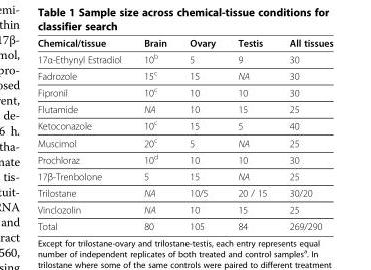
<table><thead><tr><td>Chemical/tissue</td><td>Brain</td><td>Ovary</td><td>Testis</td><td>All tissues</td></tr></thead><tbody><tr><td>17α-Ethynyl Estradiol</td><td>10<sup>b</sup></td><td>5</td><td>9</td><td>30</td></tr><tr><td>Fadrozole</td><td>15<sup>c</sup></td><td>15</td><td>NA</td><td>30</td></tr><tr><td>Fipronil</td><td>10<sup>c</sup></td><td>10</td><td>10</td><td>30</td></tr><tr><td>Flutamide</td><td>NA</td><td>10</td><td>15</td><td>25</td></tr><tr><td>Ketoconazole</td><td>10<sup>c</sup></td><td>15</td><td>5</td><td>40</td></tr><tr><td>Muscimol</td><td>20<sup>c</sup></td><td>5</td><td>NA</td><td>25</td></tr><tr><td>Prochloraz</td><td>10<sup>d</sup></td><td>10</td><td>10</td><td>30</td></tr><tr><td>17β-Trenbolone</td><td>5</td><td>15</td><td>NA</td><td>25</td></tr><tr><td>Trilostane</td><td>NA</td><td>10/5</td><td>20 / 15</td><td>30/20</td></tr><tr><td>Vinclozolin</td><td>NA</td><td>10</td><td>15</td><td>25</td></tr><tr><td>Total</td><td>80</td><td>105</td><td>84</td><td>269/290</td></tr></tbody></table>